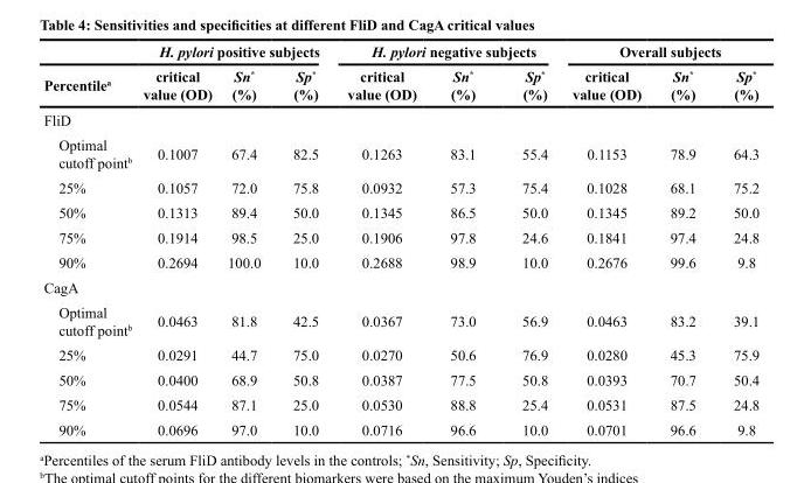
<table><thead><tr><td rowspan="2">Percentile<sup>a</sup></td><td colspan="3">H. pylori positive subjects</td><td colspan="3">H. pylori negative subjects</td><td colspan="3">Overall subjects</td></tr><tr><td>critical value (OD)</td><td>Sn* (%)</td><td>Sp* (%)</td><td>critical value (OD)</td><td>Sn* (%)</td><td>Sp* (%)</td><td>critical value (OD)</td><td>Sn* (%)</td><td>Sp* (%)</td></tr></thead><tbody><tr><td colspan="10">FliD</td></tr><tr><td>Optimal cutoff point<sup>b</sup></td><td>0.1007</td><td>67.4</td><td>82.5</td><td>0.1263</td><td>83.1</td><td>55.4</td><td>0.1153</td><td>78.9</td><td>64.3</td></tr><tr><td>25%</td><td>0.1057</td><td>72.0</td><td>75.8</td><td>0.0932</td><td>57.3</td><td>75.4</td><td>0.1028</td><td>68.1</td><td>75.2</td></tr><tr><td>50%</td><td>0.1313</td><td>89.4</td><td>50.0</td><td>0.1345</td><td>86.5</td><td>50.0</td><td>0.1345</td><td>89.2</td><td>50.0</td></tr><tr><td>75%</td><td>0.1914</td><td>98.5</td><td>25.0</td><td>0.1906</td><td>97.8</td><td>24.6</td><td>0.1841</td><td>97.4</td><td>24.8</td></tr><tr><td>90%</td><td>0.2694</td><td>100.0</td><td>10.0</td><td>0.2688</td><td>98.9</td><td>10.0</td><td>0.2676</td><td>99.6</td><td>9.8</td></tr><tr><td colspan="10">CagA</td></tr><tr><td>Optimal cutoff point<sup>b</sup></td><td>0.0463</td><td>81.8</td><td>42.5</td><td>0.0367</td><td>73.0</td><td>56.9</td><td>0.0463</td><td>83.2</td><td>39.1</td></tr><tr><td>25%</td><td>0.0291</td><td>44.7</td><td>75.0</td><td>0.0270</td><td>50.6</td><td>76.9</td><td>0.0280</td><td>45.3</td><td>75.9</td></tr><tr><td>50%</td><td>0.0400</td><td>68.9</td><td>50.8</td><td>0.0387</td><td>77.5</td><td>50.8</td><td>0.0393</td><td>70.7</td><td>50.4</td></tr><tr><td>75%</td><td>0.0544</td><td>87.1</td><td>25.0</td><td>0.0530</td><td>88.8</td><td>25.4</td><td>0.0531</td><td>87.5</td><td>24.8</td></tr><tr><td>90%</td><td>0.0696</td><td>97.0</td><td>10.0</td><td>0.0716</td><td>96.6</td><td>10.0</td><td>0.0701</td><td>96.6</td><td>9.8</td></tr></tbody></table>